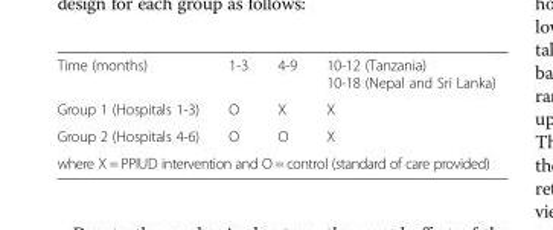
<table><tbody><tr><td>Time (months)</td><td>1-3</td><td>4-9</td><td>10-12 (Tanzania) 10-18 (Nepal and Sri Lanka)</td></tr><tr><td>Group 1 (Hospitals 1-3)</td><td>O</td><td>X</td><td>X</td></tr><tr><td>Group 2 (Hospitals 4-6)</td><td>O</td><td>O</td><td>X</td></tr><tr><td colspan="4">where X = PPIUD intervention and O = control (standard of care provided)</td></tr></tbody></table>